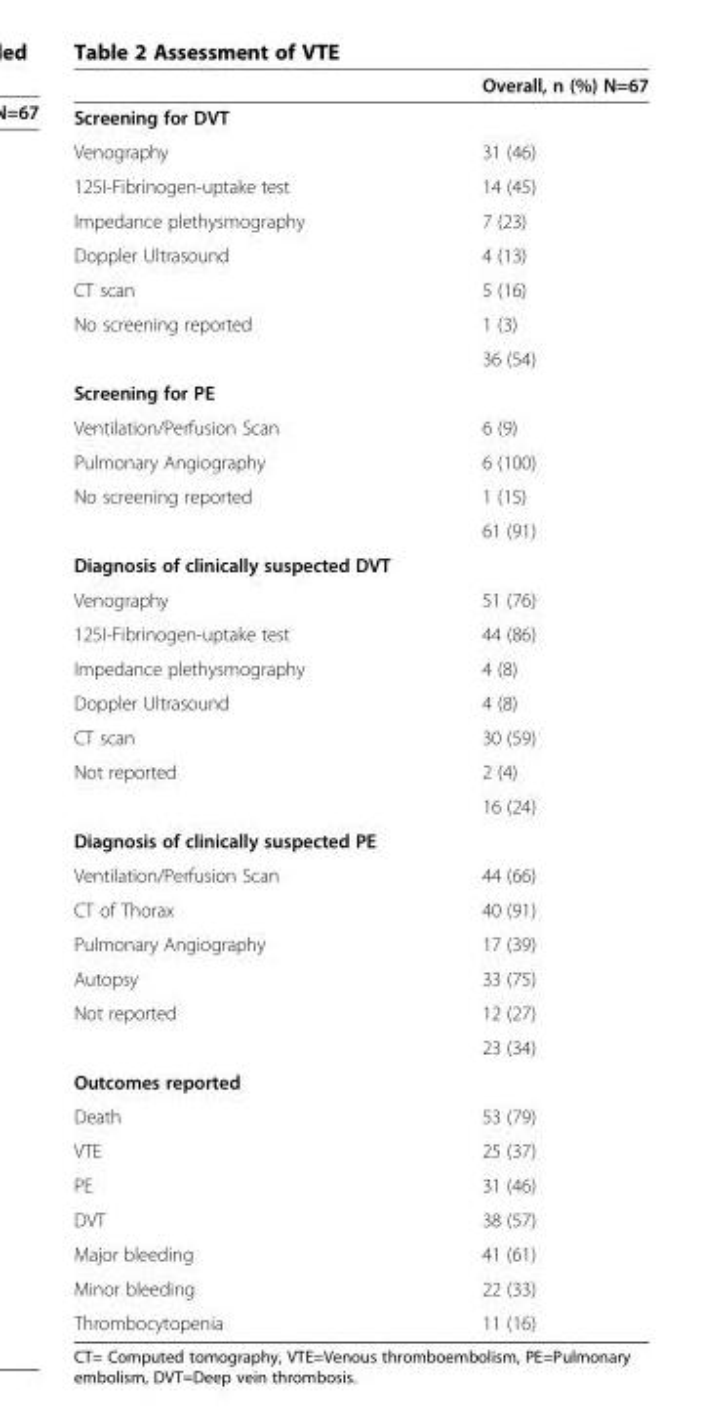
<table><thead><tr><td></td><td>Overall, n (%) N=67</td></tr></thead><tbody><tr><td colspan="2">Screening for DVT</td></tr><tr><td>Venography</td><td>31 (46)</td></tr><tr><td>125I-Fibrinogen-uptake test</td><td>14 (45)</td></tr><tr><td>Impedance plethysmography</td><td>7 (23)</td></tr><tr><td>Doppler Ultrasound</td><td>4 (13)</td></tr><tr><td>CT scan</td><td>5 (16)</td></tr><tr><td rowspan="2">No screening reported</td><td>1 (3)</td></tr><tr><td>36 (54)</td></tr><tr><td colspan="2">Screening for PE</td></tr><tr><td>Ventilation/Perfusion Scan</td><td>6 (9)</td></tr><tr><td>Pulmonary Angiography</td><td>6 (100)</td></tr><tr><td rowspan="2">No screening reported</td><td>1 (15)</td></tr><tr><td>61 (91)</td></tr><tr><td colspan="2">Diagnosis of clinically suspected DVT</td></tr><tr><td>Venography</td><td>51 (76)</td></tr><tr><td>125I-Fibrinogen-uptake test</td><td>44 (86)</td></tr><tr><td>Impedance plethysmography</td><td>4 (8)</td></tr><tr><td>Doppler Ultrasound</td><td>4 (8)</td></tr><tr><td>CT scan</td><td>30 (59)</td></tr><tr><td rowspan="2">Not reported</td><td>2 (4)</td></tr><tr><td>16 (24)</td></tr><tr><td colspan="2">Diagnosis of clinically suspected PE</td></tr><tr><td>Ventilation/Perfusion Scan</td><td>44 (66)</td></tr><tr><td>CT of Thorax</td><td>40 (91)</td></tr><tr><td>Pulmonary Angiography</td><td>17 (39)</td></tr><tr><td>Autopsy</td><td>33 (75)</td></tr><tr><td rowspan="2">Not reported</td><td>12 (27)</td></tr><tr><td>23 (34)</td></tr><tr><td colspan="2">Outcomes reported</td></tr><tr><td>Death</td><td>53 (79)</td></tr><tr><td>VTE</td><td>25 (37)</td></tr><tr><td>PE</td><td>31 (46)</td></tr><tr><td>DVT</td><td>38 (57)</td></tr><tr><td>Major bleeding</td><td>41 (61)</td></tr><tr><td>Minor bleeding</td><td>22 (33)</td></tr><tr><td>Thrombocytopenia</td><td>11 (16)</td></tr></tbody></table>